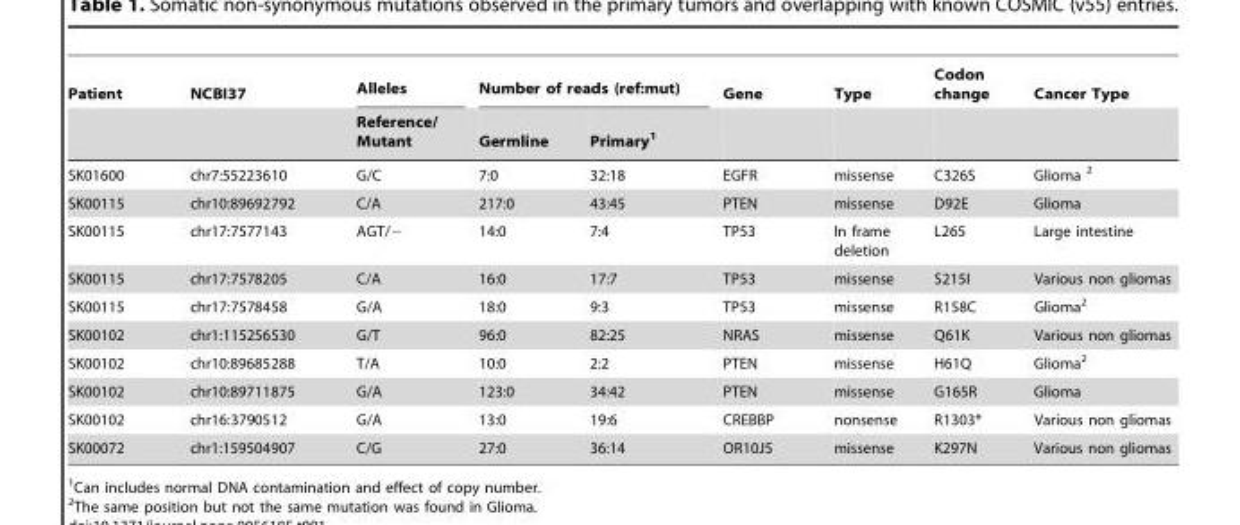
<table><thead><tr><td rowspan="2">Patient</td><td rowspan="2">NCBI37</td><td rowspan="2">Alleles Reference/ Mutant</td><td colspan="2">Number of reads (ref:mut)</td><td rowspan="2">Gene</td><td rowspan="2">Type</td><td rowspan="2">Codon change</td><td rowspan="2">Cancer Type</td></tr><tr><td>Germline</td><td>Primary<sup>1</sup></td></tr></thead><tbody><tr><td>SK01600</td><td>chr7:55223610</td><td>G/C</td><td>7:0</td><td>32:18</td><td>EGFR</td><td>missense</td><td>C326S</td><td>Glioma 2</td></tr><tr><td>SK00115</td><td>chr10:89692792</td><td>C/A</td><td>217:0</td><td>43:45</td><td>PTEN</td><td>missense</td><td>D92E</td><td>Glioma</td></tr><tr><td>SK00115</td><td>chr17:7577143</td><td>AGT/−</td><td>14:0</td><td>7:4</td><td>TP53</td><td>In frame deletion</td><td>L265</td><td>Large intestine</td></tr><tr><td>SK00115</td><td>chr17:7578205</td><td>C/A</td><td>16:0</td><td>17:7</td><td>TP53</td><td>missense</td><td>S215I</td><td>Various non gliomas</td></tr><tr><td>SK00115</td><td>chr17:7578458</td><td>G/A</td><td>18:0</td><td>9:3</td><td>TP53</td><td>missense</td><td>R158C</td><td>Glioma<sup>2</sup></td></tr><tr><td>SK00102</td><td>chr1:115256530</td><td>G/T</td><td>96:0</td><td>82:25</td><td>NRAS</td><td>missense</td><td>Q61K</td><td>Various non gliomas</td></tr><tr><td>SK00102</td><td>chr10:89685288</td><td>T/A</td><td>10:0</td><td>2:2</td><td>PTEN</td><td>missense</td><td>H61Q</td><td>Glioma<sup>2</sup></td></tr><tr><td>SK00102</td><td>chr10:89711875</td><td>G/A</td><td>123:0</td><td>34:42</td><td>PTEN</td><td>missense</td><td>G165R</td><td>Glioma</td></tr><tr><td>SK00102</td><td>chr16:3790512</td><td>G/A</td><td>13:0</td><td>19:6</td><td>CREBBP</td><td>nonsense</td><td>R1303*</td><td>Various non gliomas</td></tr><tr><td>SK00072</td><td>chr1:159504907</td><td>C/G</td><td>27:0</td><td>36:14</td><td>OR10J5</td><td>missense</td><td>K297N</td><td>Various non gliomas</td></tr></tbody></table>